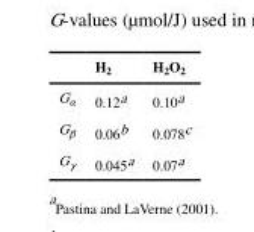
<table><thead><tr><td></td><td>H<sub>2</sub></td><td>H<sub>2</sub>O<sub>2</sub></td></tr></thead><tbody><tr><td>G<sub>α</sub></td><td>0.12<sup>a</sup></td><td>0.10<sup>a</sup></td></tr><tr><td>G<sub>β</sub></td><td>0.06<sup>b</sup></td><td>0.078<sup>c</sup></td></tr><tr><td>G<sub>γ</sub></td><td>0.045<sup>a</sup></td><td>0.07<sup>a</sup></td></tr></tbody></table>